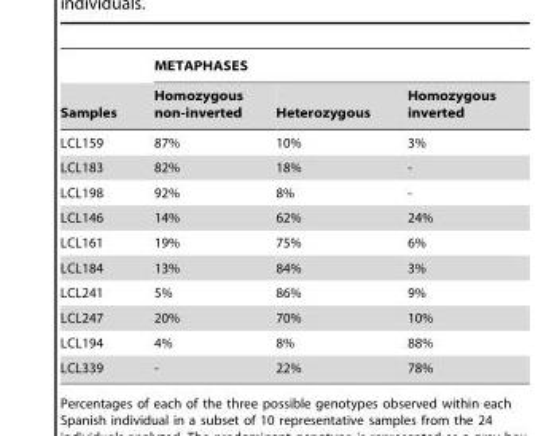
<table><thead><tr><td rowspan="2">Samples</td><td colspan="3">METAPHASES</td></tr><tr><td>Homozygous non-inverted</td><td>Heterozygous</td><td>Homozygous inverted</td></tr></thead><tbody><tr><td>LCL159</td><td>87%</td><td>10%</td><td>3%</td></tr><tr><td>LCL183</td><td>82%</td><td>18%</td><td>-</td></tr><tr><td>LCL198</td><td>92%</td><td>8%</td><td>-</td></tr><tr><td>LCL146</td><td>14%</td><td>62%</td><td>24%</td></tr><tr><td>LCL161</td><td>19%</td><td>75%</td><td>6%</td></tr><tr><td>LCL184</td><td>13%</td><td>84%</td><td>3%</td></tr><tr><td>LCL241</td><td>5%</td><td>86%</td><td>9%</td></tr><tr><td>LCL247</td><td>20%</td><td>70%</td><td>10%</td></tr><tr><td>LCL194</td><td>4%</td><td>8%</td><td>88%</td></tr><tr><td>LCL339</td><td>-</td><td>22%</td><td>78%</td></tr></tbody></table>